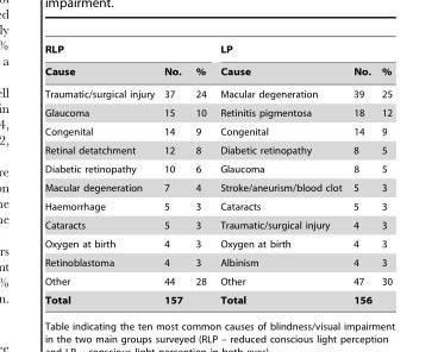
<table><thead><tr><td colspan="3">RLP</td><td colspan="3">LP</td></tr><tr><td>Cause</td><td>No.</td><td>%</td><td>Cause</td><td>No.</td><td>%</td></tr></thead><tbody><tr><td>Traumatic/surgical injury</td><td>37</td><td>24</td><td>Macular degeneration</td><td>39</td><td>25</td></tr><tr><td>Glaucoma</td><td>15</td><td>10</td><td>Retinitis pigmentosa</td><td>18</td><td>12</td></tr><tr><td>Congenital</td><td>14</td><td>9</td><td>Congenital</td><td>14</td><td>9</td></tr><tr><td>Retinal detatchment</td><td>12</td><td>8</td><td>Diabetic retinopathy</td><td>8</td><td>5</td></tr><tr><td>Diabetic retinopathy</td><td>10</td><td>6</td><td>Glaucoma</td><td>8</td><td>5</td></tr><tr><td>Macular degeneration</td><td>7</td><td>4</td><td>Stroke/aneurism/blood clot</td><td>5</td><td>3</td></tr><tr><td>Haemorrhage</td><td>5</td><td>3</td><td>Cataracts</td><td>5</td><td>3</td></tr><tr><td>Cataracts</td><td>5</td><td>3</td><td>Traumatic/surgical injury</td><td>4</td><td>3</td></tr><tr><td>Oxygen at birth</td><td>4</td><td>3</td><td>Oxygen at birth</td><td>4</td><td>3</td></tr><tr><td>Retinoblastoma</td><td>4</td><td>3</td><td>Albinism</td><td>4</td><td>3</td></tr><tr><td>Other</td><td>44</td><td>28</td><td>Other</td><td>47</td><td>30</td></tr><tr><td>Total</td><td>157</td><td></td><td>Total</td><td>156</td><td></td></tr></tbody></table>